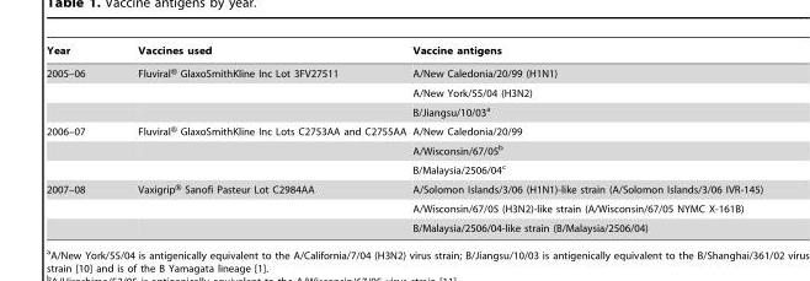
<table><thead><tr><td>Year</td><td>Vaccines used</td><td>Vaccine antigens</td></tr></thead><tbody><tr><td rowspan="3">2005–06</td><td>Fluviral® GlaxoSmithKline Inc Lot 3FV27511</td><td>A/New Caledonia/20/99 (H1N1)</td></tr><tr><td></td><td>A/New York/55/04 (H3N2)</td></tr><tr><td></td><td>B/Jiangsu/10/03<sup>a</sup></td></tr><tr><td rowspan="3">2006–07</td><td>Fluviral® GlaxoSmithKline Inc Lots C2753AA and C2755AA</td><td>A/New Caledonia/20/99</td></tr><tr><td></td><td>A/Wisconsin/67/05<sup>b</sup></td></tr><tr><td></td><td>B/Malaysia/2506/04<sup>c</sup></td></tr><tr><td rowspan="3">2007–08</td><td>Vaxigrip® Sanofi Pasteur Lot C2984AA</td><td>A/Solomon Islands/3/06 (H1N1)-like strain (A/Solomon Islands/3/06 IVR-145)</td></tr><tr><td></td><td>A/Wisconsin/67/05 (H3N2)-like strain (A/Wisconsin/67/05 NYMC X-161B)</td></tr><tr><td></td><td>B/Malaysia/2506/04-like strain (B/Malaysia/2506/04)</td></tr></tbody></table>